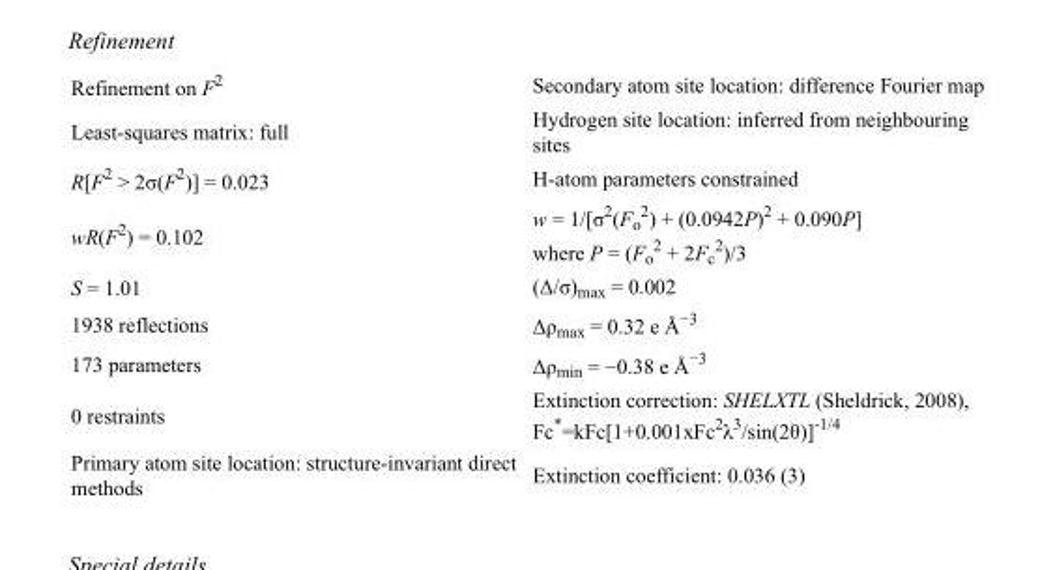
<table><tbody><tr><td>Refinement on F<sup>2</sup></td><td>Secondary atom site location: difference Fourier map</td></tr><tr><td>Least-squares matrix: full</td><td>Hydrogen site location: inferred from neighbouring sites</td></tr><tr><td>R[F<sup>2</sup> &gt; 2σ(F<sup>2</sup>)] = 0.023</td><td>H-atom parameters constrained</td></tr><tr><td>wR(F<sup>2</sup>) = 0.102</td><td>w = 1/[σ<sup>2</sup>(F<sub>o</sub> <sup>2</sup>) + (0.0942P)<sup>2</sup> + 0.090P] where P = (F<sub>o</sub> <sup>2</sup> + 2F<sub>c</sub> <sup>2</sup>)/3</td></tr><tr><td>S = 1.01</td><td>(Δ/σ)<sub>max</sub> = 0.002</td></tr><tr><td>1938 reflections</td><td>Δρ<sub>max</sub> = 0.32 e Å<sup>−3</sup></td></tr><tr><td>173 parameters</td><td>Δρ<sub>min</sub> = −0.38 e Å<sup>−3</sup></td></tr><tr><td>0 restraints</td><td>Extinction correction: SHELXTL (Sheldrick, 2008), Fc*=kFc[1+0.001xFc<sup>2</sup>λ<sup>3</sup>/sin(2θ)]<sup>-1/4</sup></td></tr><tr><td>Primary atom site location: structure-invariant direct methods</td><td>Extinction coefficient: 0.036 (3)</td></tr></tbody></table>